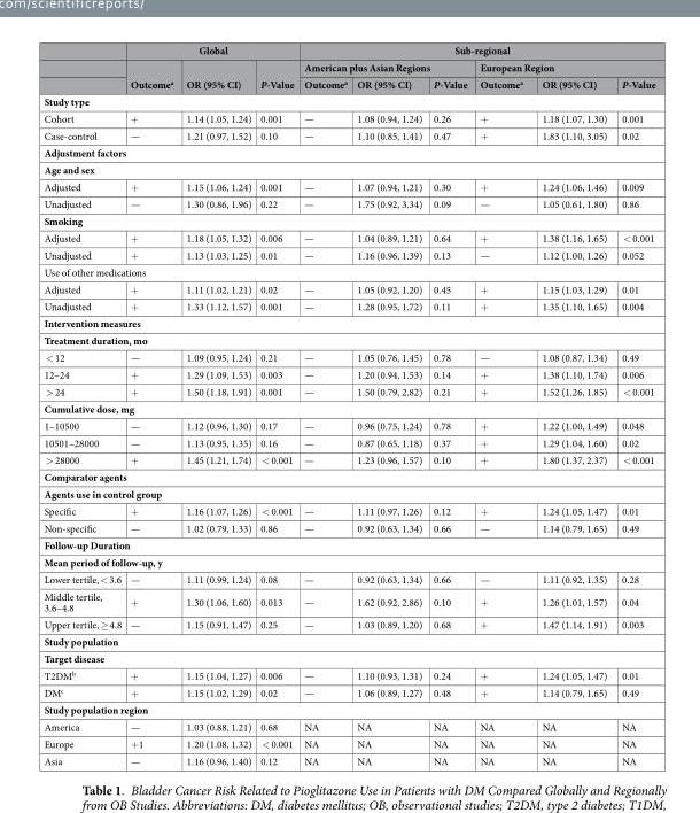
<table><thead><tr><td rowspan="3"></td><td colspan="3">Global</td><td colspan="6">Sub-regional</td></tr><tr><td rowspan="2">Outcome<sup>a</sup></td><td rowspan="2">OR (95% CI)</td><td rowspan="2">P-Value</td><td colspan="3">American plus Asian Regions</td><td colspan="3">European Region</td></tr><tr><td>Outcome<sup>a</sup></td><td>OR (95% CI)</td><td>P-Value</td><td>Outcome<sup>a</sup></td><td>OR (95% CI)</td><td>P-Value</td></tr></thead><tbody><tr><td colspan="10">Study type</td></tr><tr><td>Cohort</td><td>+</td><td>1.14 (1.05, 1.24)</td><td>0.001</td><td>—</td><td>1.08 (0.94, 1.24)</td><td>0.26</td><td>+</td><td>1.18 (1.07, 1.30)</td><td>0.001</td></tr><tr><td>Case-control</td><td>—</td><td>1.21 (0.97, 1.52)</td><td>0.10</td><td>—</td><td>1.10 (0.85, 1.41)</td><td>0.47</td><td>+</td><td>1.83 (1.10, 3.05)</td><td>0.02</td></tr><tr><td colspan="10">Adjustment factors</td></tr><tr><td colspan="10">Age and sex</td></tr><tr><td>Adjusted</td><td>+</td><td>1.15 (1.06, 1.24)</td><td>0.001</td><td>—</td><td>1.07 (0.94, 1.21)</td><td>0.30</td><td>+</td><td>1.24 (1.06, 1.46)</td><td>0.009</td></tr><tr><td>Unadjusted</td><td>—</td><td>1.30 (0.86, 1.96)</td><td>0.22</td><td>—</td><td>1.75 (0.92, 3.34)</td><td>0.09</td><td>—</td><td>1.05 (0.61, 1.80)</td><td>0.86</td></tr><tr><td colspan="10">Smoking</td></tr><tr><td>Adjusted</td><td>+</td><td>1.18 (1.05, 1.32)</td><td>0.006</td><td>—</td><td>1.04 (0.89, 1.21)</td><td>0.64</td><td>+</td><td>1.38 (1.16, 1.65)</td><td>&lt; 0.001</td></tr><tr><td>Unadjusted</td><td>+</td><td>1.13 (1.03, 1.25)</td><td>0.01</td><td>—</td><td>1.16 (0.96, 1.39)</td><td>0.13</td><td>—</td><td>1.12 (1.00, 1.26)</td><td>0.052</td></tr><tr><td colspan="10">Use of other medications</td></tr><tr><td>Adjusted</td><td>+</td><td>1.11 (1.02, 1.21)</td><td>0.02</td><td>—</td><td>1.05 (0.92, 1.20)</td><td>0.45</td><td>+</td><td>1.15 (1.03, 1.29)</td><td>0.01</td></tr><tr><td>Unadjusted</td><td>+</td><td>1.33 (1.12, 1.57)</td><td>0.001</td><td>—</td><td>1.28 (0.95, 1.72)</td><td>0.11</td><td>+</td><td>1.35 (1.10, 1.65)</td><td>0.004</td></tr><tr><td colspan="10">Intervention measures</td></tr><tr><td colspan="10">Treatment duration, mo</td></tr><tr><td>&lt; 12</td><td>—</td><td>1.09 (0.95, 1.24)</td><td>0.21</td><td>—</td><td>1.05 (0.76, 1.45)</td><td>0.78</td><td>—</td><td>1.08 (0.87, 1.34)</td><td>0.49</td></tr><tr><td>12–24</td><td>+</td><td>1.29 (1.09, 1.53)</td><td>0.003</td><td>—</td><td>1.20 (0.94, 1.53)</td><td>0.14</td><td>+</td><td>1.38 (1.10, 1.74)</td><td>0.006</td></tr><tr><td>&gt; 24</td><td>+</td><td>1.50 (1.18, 1.91)</td><td>0.001</td><td>—</td><td>1.50 (0.79, 2.82)</td><td>0.21</td><td>+</td><td>1.52 (1.26, 1.85)</td><td>&lt; 0.001</td></tr><tr><td colspan="10">Cumulative dose, mg</td></tr><tr><td>1–10500</td><td>—</td><td>1.12 (0.96, 1.30)</td><td>0.17</td><td>—</td><td>0.96 (0.75, 1.24)</td><td>0.78</td><td>+</td><td>1.22 (1.00, 1.49)</td><td>0.048</td></tr><tr><td>10501–28000</td><td>—</td><td>1.13 (0.95, 1.35)</td><td>0.16</td><td>—</td><td>0.87 (0.65, 1.18)</td><td>0.37</td><td>+</td><td>1.29 (1.04, 1.60)</td><td>0.02</td></tr><tr><td>&gt; 28000</td><td>+</td><td>1.45 (1.21, 1.74)</td><td>&lt; 0.001</td><td>—</td><td>1.23 (0.96, 1.57)</td><td>0.10</td><td>+</td><td>1.80 (1.37, 2.37)</td><td>&lt; 0.001</td></tr><tr><td colspan="10">Comparator agents</td></tr><tr><td colspan="10">Agents use in control group</td></tr><tr><td>Specific</td><td>+</td><td>1.16 (1.07, 1.26)</td><td>&lt; 0.001</td><td>—</td><td>1.11 (0.97, 1.26)</td><td>0.12</td><td>+</td><td>1.24 (1.05, 1.47)</td><td>0.01</td></tr><tr><td>Non-specific</td><td>—</td><td>1.02 (0.79, 1.33)</td><td>0.86</td><td>—</td><td>0.92 (0.63, 1.34)</td><td>0.66</td><td>—</td><td>1.14 (0.79, 1.65)</td><td>0.49</td></tr><tr><td colspan="10">Follow-up Duration</td></tr><tr><td colspan="10">Mean period of follow-up, y</td></tr><tr><td>Lower tertile, &lt; 3.6</td><td>—</td><td>1.11 (0.99, 1.24)</td><td>0.08</td><td>—</td><td>0.92 (0.63, 1.34)</td><td>0.66</td><td>—</td><td>1.11 (0.92, 1.35)</td><td>0.28</td></tr><tr><td>Middle tertile, 3.6–4.8</td><td>+</td><td>1.30 (1.06, 1.60)</td><td>0.013</td><td>—</td><td>1.62 (0.92, 2.86)</td><td>0.10</td><td>+</td><td>1.26 (1.01, 1.57)</td><td>0.04</td></tr><tr><td>Upper tertile, ≥ 4.8</td><td>—</td><td>1.15 (0.91, 1.47)</td><td>0.25</td><td>—</td><td>1.03 (0.89, 1.20)</td><td>0.68</td><td>+</td><td>1.47 (1.14, 1.91)</td><td>0.003</td></tr><tr><td colspan="10">Study population</td></tr><tr><td colspan="10">Target disease</td></tr><tr><td>T2DM<sup>b</sup></td><td>+</td><td>1.15 (1.04, 1.27)</td><td>0.006</td><td>—</td><td>1.10 (0.93, 1.31)</td><td>0.24</td><td>+</td><td>1.24 (1.05, 1.47)</td><td>0.01</td></tr><tr><td>DM<sup>c</sup></td><td>+</td><td>1.15 (1.02, 1.29)</td><td>0.02</td><td>—</td><td>1.06 (0.89, 1.27)</td><td>0.48</td><td>+</td><td>1.14 (0.79, 1.65)</td><td>0.49</td></tr><tr><td colspan="10">Study population region</td></tr><tr><td>America</td><td>—</td><td>1.03 (0.88, 1.21)</td><td>0.68</td><td>NA</td><td>NA</td><td>NA</td><td>NA</td><td>NA</td><td>NA</td></tr><tr><td>Europe</td><td>+1</td><td>1.20 (1.08, 1.32)</td><td>&lt; 0.001</td><td>NA</td><td>NA</td><td>NA</td><td>NA</td><td>NA</td><td>NA</td></tr><tr><td>Asia</td><td>—</td><td>1.16 (0.96, 1.40)</td><td>0.12</td><td>NA</td><td>NA</td><td>NA</td><td>NA</td><td>NA</td><td>NA</td></tr></tbody></table>